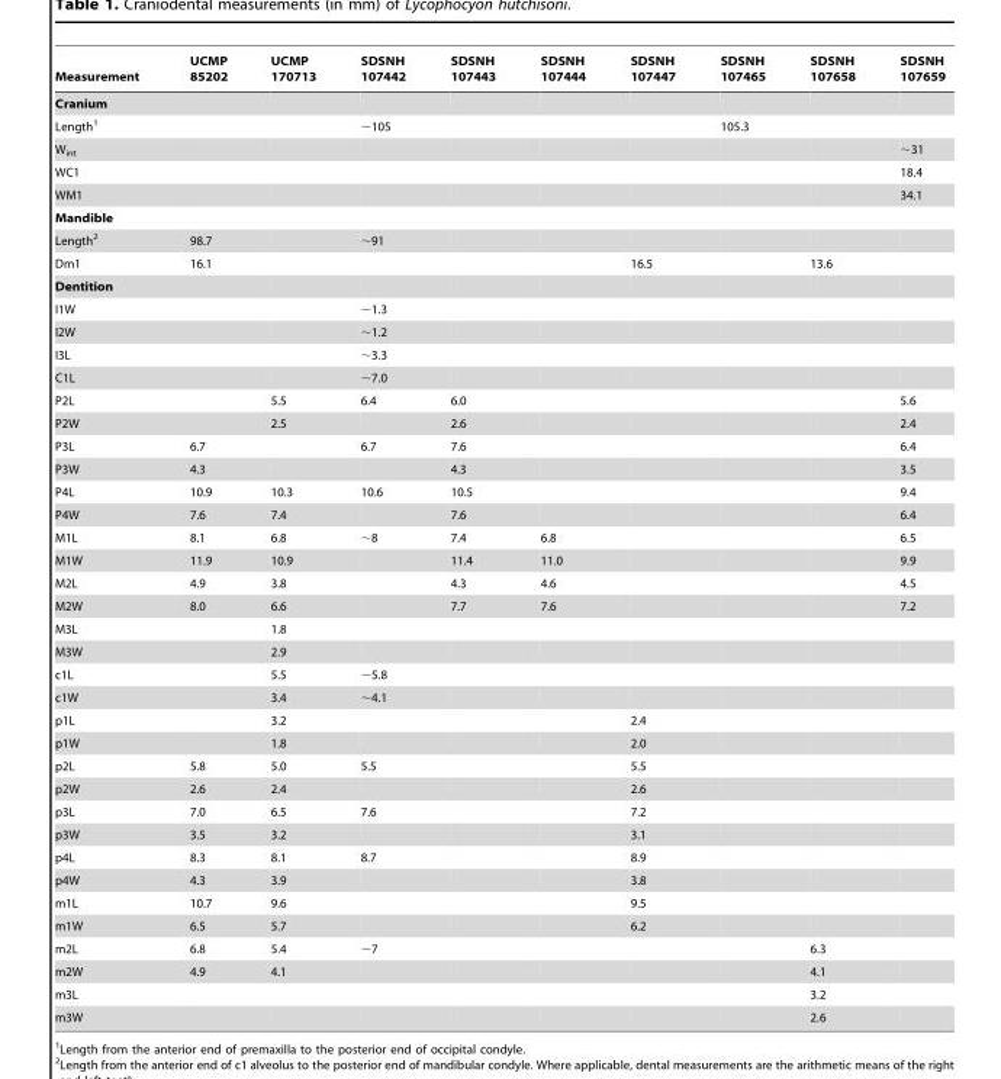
<table><thead><tr><td>Measurement</td><td>UCMP 85202</td><td>UCMP 170713</td><td>SDSNH 107442</td><td>SDSNH 107443</td><td>SDSNH 107444</td><td>SDSNH 107447</td><td>SDSNH 107465</td><td>SDSNH 107658</td><td>SDSNH 107659</td></tr></thead><tbody><tr><td colspan="10">Cranium</td></tr><tr><td>Length<sup>1</sup></td><td></td><td></td><td>∼105</td><td></td><td></td><td></td><td>105.3</td><td></td><td></td></tr><tr><td>W<sub>int</sub></td><td></td><td></td><td></td><td></td><td></td><td></td><td></td><td></td><td>∼31</td></tr><tr><td>WC1</td><td></td><td></td><td></td><td></td><td></td><td></td><td></td><td></td><td>18.4</td></tr><tr><td>WM1</td><td></td><td></td><td></td><td></td><td></td><td></td><td></td><td></td><td>34.1</td></tr><tr><td colspan="10">Mandible</td></tr><tr><td>Length<sup>2</sup></td><td>98.7</td><td></td><td>∼91</td><td></td><td></td><td></td><td></td><td></td><td></td></tr><tr><td>Dm1</td><td>16.1</td><td></td><td></td><td></td><td></td><td>16.5</td><td></td><td>13.6</td><td></td></tr><tr><td colspan="10">Dentition</td></tr><tr><td>I1W</td><td></td><td></td><td>∼1.3</td><td></td><td></td><td></td><td></td><td></td><td></td></tr><tr><td>I2W</td><td></td><td></td><td>∼1.2</td><td></td><td></td><td></td><td></td><td></td><td></td></tr><tr><td>I3L</td><td></td><td></td><td>∼3.3</td><td></td><td></td><td></td><td></td><td></td><td></td></tr><tr><td>C1L</td><td></td><td></td><td>∼7.0</td><td></td><td></td><td></td><td></td><td></td><td></td></tr><tr><td>P2L</td><td></td><td>5.5</td><td>6.4</td><td>6.0</td><td></td><td></td><td></td><td></td><td>5.6</td></tr><tr><td>P2W</td><td></td><td>2.5</td><td></td><td>2.6</td><td></td><td></td><td></td><td></td><td>2.4</td></tr><tr><td>P3L</td><td>6.7</td><td></td><td>6.7</td><td>7.6</td><td></td><td></td><td></td><td></td><td>6.4</td></tr><tr><td>P3W</td><td>4.3</td><td></td><td></td><td>4.3</td><td></td><td></td><td></td><td></td><td>3.5</td></tr><tr><td>P4L</td><td>10.9</td><td>10.3</td><td>10.6</td><td>10.5</td><td></td><td></td><td></td><td></td><td>9.4</td></tr><tr><td>P4W</td><td>7.6</td><td>7.4</td><td></td><td>7.6</td><td></td><td></td><td></td><td></td><td>6.4</td></tr><tr><td>M1L</td><td>8.1</td><td>6.8</td><td>∼8</td><td>7.4</td><td>6.8</td><td></td><td></td><td></td><td>6.5</td></tr><tr><td>M1W</td><td>11.9</td><td>10.9</td><td></td><td>11.4</td><td>11.0</td><td></td><td></td><td></td><td>9.9</td></tr><tr><td>M2L</td><td>4.9</td><td>3.8</td><td></td><td>4.3</td><td>4.6</td><td></td><td></td><td></td><td>4.5</td></tr><tr><td>M2W</td><td>8.0</td><td>6.6</td><td></td><td>7.7</td><td>7.6</td><td></td><td></td><td></td><td>7.2</td></tr><tr><td>M3L</td><td></td><td>1.8</td><td></td><td></td><td></td><td></td><td></td><td></td><td></td></tr><tr><td>M3W</td><td></td><td>2.9</td><td></td><td></td><td></td><td></td><td></td><td></td><td></td></tr><tr><td>c1L</td><td></td><td>5.5</td><td>∼5.8</td><td></td><td></td><td></td><td></td><td></td><td></td></tr><tr><td>c1W</td><td></td><td>3.4</td><td>∼4.1</td><td></td><td></td><td></td><td></td><td></td><td></td></tr><tr><td>p1L</td><td></td><td>3.2</td><td></td><td></td><td></td><td>2.4</td><td></td><td></td><td></td></tr><tr><td>p1W</td><td></td><td>1.8</td><td></td><td></td><td></td><td>2.0</td><td></td><td></td><td></td></tr><tr><td>p2L</td><td>5.8</td><td>5.0</td><td>5.5</td><td></td><td></td><td>5.5</td><td></td><td></td><td></td></tr><tr><td>p2W</td><td>2.6</td><td>2.4</td><td></td><td></td><td></td><td>2.6</td><td></td><td></td><td></td></tr><tr><td>p3L</td><td>7.0</td><td>6.5</td><td>7.6</td><td></td><td></td><td>7.2</td><td></td><td></td><td></td></tr><tr><td>p3W</td><td>3.5</td><td>3.2</td><td></td><td></td><td></td><td>3.1</td><td></td><td></td><td></td></tr><tr><td>p4L</td><td>8.3</td><td>8.1</td><td>8.7</td><td></td><td></td><td>8.9</td><td></td><td></td><td></td></tr><tr><td>p4W</td><td>4.3</td><td>3.9</td><td></td><td></td><td></td><td>3.8</td><td></td><td></td><td></td></tr><tr><td>m1L</td><td>10.7</td><td>9.6</td><td></td><td></td><td></td><td>9.5</td><td></td><td></td><td></td></tr><tr><td>m1W</td><td>6.5</td><td>5.7</td><td></td><td></td><td></td><td>6.2</td><td></td><td></td><td></td></tr><tr><td>m2L</td><td>6.8</td><td>5.4</td><td>∼7</td><td></td><td></td><td></td><td></td><td>6.3</td><td></td></tr><tr><td>m2W</td><td>4.9</td><td>4.1</td><td></td><td></td><td></td><td></td><td></td><td>4.1</td><td></td></tr><tr><td>m3L</td><td></td><td></td><td></td><td></td><td></td><td></td><td></td><td>3.2</td><td></td></tr><tr><td>m3W</td><td></td><td></td><td></td><td></td><td></td><td></td><td></td><td>2.6</td><td></td></tr></tbody></table>